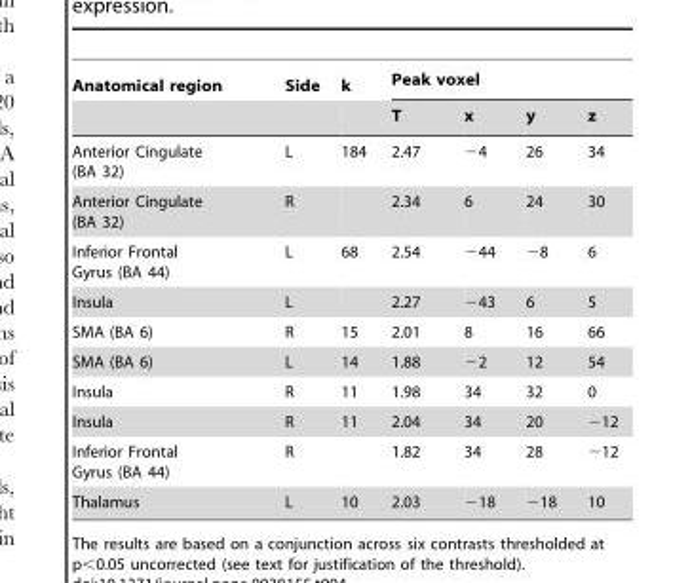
<table><thead><tr><td rowspan="2">Anatomical region</td><td rowspan="2">Side</td><td rowspan="2">k</td><td colspan="4">Peak voxel</td></tr><tr><td>T</td><td>x</td><td>y</td><td>z</td></tr></thead><tbody><tr><td>Anterior Cingulate (BA 32)</td><td>L</td><td>184</td><td>2.47</td><td>−4</td><td>26</td><td>34</td></tr><tr><td>Anterior Cingulate (BA 32)</td><td>R</td><td></td><td>2.34</td><td>6</td><td>24</td><td>30</td></tr><tr><td>Inferior Frontal Gyrus (BA 44)</td><td>L</td><td>68</td><td>2.54</td><td>−44</td><td>−8</td><td>6</td></tr><tr><td>Insula</td><td>L</td><td></td><td>2.27</td><td>−43</td><td>6</td><td>5</td></tr><tr><td>SMA (BA 6)</td><td>R</td><td>15</td><td>2.01</td><td>8</td><td>16</td><td>66</td></tr><tr><td>SMA (BA 6)</td><td>L</td><td>14</td><td>1.88</td><td>−2</td><td>12</td><td>54</td></tr><tr><td>Insula</td><td>R</td><td>11</td><td>1.98</td><td>34</td><td>32</td><td>0</td></tr><tr><td>Insula</td><td>R</td><td>11</td><td>2.04</td><td>34</td><td>20</td><td>−12</td></tr><tr><td>Inferior Frontal Gyrus (BA 44)</td><td>R</td><td></td><td>1.82</td><td>34</td><td>28</td><td>−12</td></tr><tr><td>Thalamus</td><td>L</td><td>10</td><td>2.03</td><td>−18</td><td>−18</td><td>10</td></tr></tbody></table>